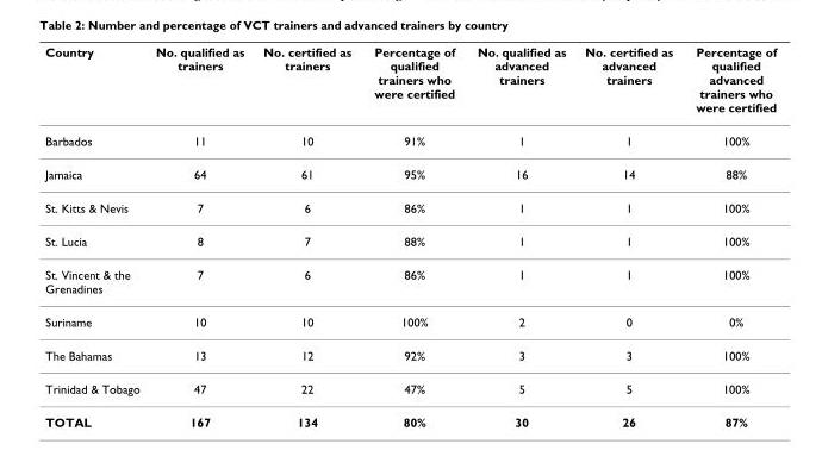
<table><thead><tr><td>Country</td><td>No. qualified as trainers</td><td>No. certified as trainers</td><td>Percentage of qualified trainers who were certified</td><td>No. qualified as advanced trainers</td><td>No. certified as advanced trainers</td><td>Percentage of qualified advanced trainers who were certified</td></tr></thead><tbody><tr><td>Barbados</td><td>11</td><td>10</td><td>91%</td><td>1</td><td>1</td><td>100%</td></tr><tr><td>Jamaica</td><td>64</td><td>61</td><td>95%</td><td>16</td><td>14</td><td>88%</td></tr><tr><td>St. Kitts &amp; Nevis</td><td>7</td><td>6</td><td>86%</td><td>1</td><td>1</td><td>100%</td></tr><tr><td>St. Lucia</td><td>8</td><td>7</td><td>88%</td><td>1</td><td>1</td><td>100%</td></tr><tr><td>St. Vincent &amp; the Grenadines</td><td>7</td><td>6</td><td>86%</td><td>1</td><td>1</td><td>100%</td></tr><tr><td>Suriname</td><td>10</td><td>10</td><td>100%</td><td>2</td><td>0</td><td>0%</td></tr><tr><td>The Bahamas</td><td>13</td><td>12</td><td>92%</td><td>3</td><td>3</td><td>100%</td></tr><tr><td>Trinidad &amp; Tobago</td><td>47</td><td>22</td><td>47%</td><td>5</td><td>5</td><td>100%</td></tr><tr><td>TOTAL</td><td>167</td><td>134</td><td>80%</td><td>30</td><td>26</td><td>87%</td></tr></tbody></table>